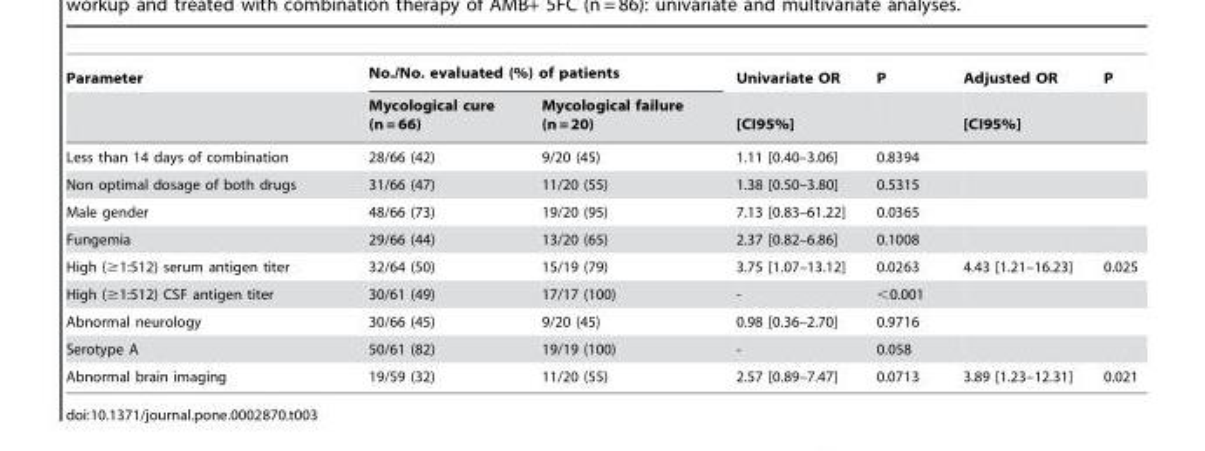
<table><thead><tr><td rowspan="2">Parameter</td><td colspan="2">No./No. evaluated (%) of patients</td><td rowspan="2">Univariate OR [CI95%]</td><td rowspan="2">P</td><td rowspan="2">Adjusted OR [CI95%]</td><td rowspan="2">P</td></tr><tr><td>Mycological cure (n = 66)</td><td>Mycological failure (n = 20)</td></tr></thead><tbody><tr><td>Less than 14 days of combination</td><td>28/66 (42)</td><td>9/20 (45)</td><td>1.11 [0.40–3.06]</td><td>0.8394</td><td></td><td></td></tr><tr><td>Non optimal dosage of both drugs</td><td>31/66 (47)</td><td>11/20 (55)</td><td>1.38 [0.50–3.80]</td><td>0.5315</td><td></td><td></td></tr><tr><td>Male gender</td><td>48/66 (73)</td><td>19/20 (95)</td><td>7.13 [0.83–61.22]</td><td>0.0365</td><td></td><td></td></tr><tr><td>Fungemia</td><td>29/66 (44)</td><td>13/20 (65)</td><td>2.37 [0.82–6.86]</td><td>0.1008</td><td></td><td></td></tr><tr><td>High (≥1:512) serum antigen titer</td><td>32/64 (50)</td><td>15/19 (79)</td><td>3.75 [1.07–13.12]</td><td>0.0263</td><td>4.43 [1.21–16.23]</td><td>0.025</td></tr><tr><td>High (≥1:512) CSF antigen titer</td><td>30/61 (49)</td><td>17/17 (100)</td><td>-</td><td>&lt;0.001</td><td></td><td></td></tr><tr><td>Abnormal neurology</td><td>30/66 (45)</td><td>9/20 (45)</td><td>0.98 [0.36–2.70]</td><td>0.9716</td><td></td><td></td></tr><tr><td>Serotype A</td><td>50/61 (82)</td><td>19/19 (100)</td><td>-</td><td>0.058</td><td></td><td></td></tr><tr><td>Abnormal brain imaging</td><td>19/59 (32)</td><td>11/20 (55)</td><td>2.57 [0.89–7.47]</td><td>0.0713</td><td>3.89 [1.23–12.31]</td><td>0.021</td></tr></tbody></table>